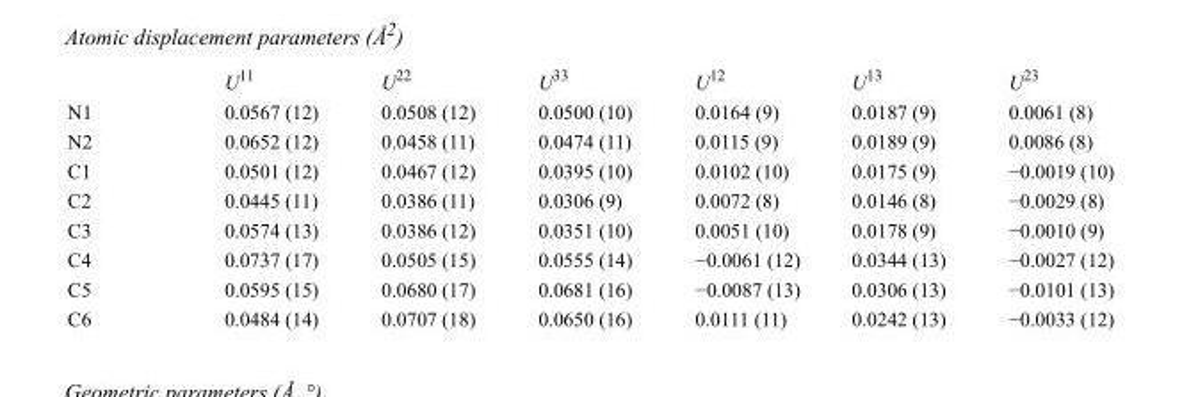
<table><thead><tr><td></td><td>U<sup>11</sup></td><td>U<sup>22</sup></td><td>U<sup>33</sup></td><td>U<sup>12</sup></td><td>U<sup>13</sup></td><td>U<sup>23</sup></td></tr></thead><tbody><tr><td>N1</td><td>0.0567 (12)</td><td>0.0508 (12)</td><td>0.0500 (10)</td><td>0.0164 (9)</td><td>0.0187 (9)</td><td>0.0061 (8)</td></tr><tr><td>N2</td><td>0.0652 (12)</td><td>0.0458 (11)</td><td>0.0474 (11)</td><td>0.0115 (9)</td><td>0.0189 (9)</td><td>0.0086 (8)</td></tr><tr><td>C1</td><td>0.0501 (12)</td><td>0.0467 (12)</td><td>0.0395 (10)</td><td>0.0102 (10)</td><td>0.0175 (9)</td><td>−0.0019 (10)</td></tr><tr><td>C2</td><td>0.0445 (11)</td><td>0.0386 (11)</td><td>0.0306 (9)</td><td>0.0072 (8)</td><td>0.0146 (8)</td><td>−0.0029 (8)</td></tr><tr><td>C3</td><td>0.0574 (13)</td><td>0.0386 (12)</td><td>0.0351 (10)</td><td>0.0051 (10)</td><td>0.0178 (9)</td><td>−0.0010 (9)</td></tr><tr><td>C4</td><td>0.0737 (17)</td><td>0.0505 (15)</td><td>0.0555 (14)</td><td>−0.0061 (12)</td><td>0.0344 (13)</td><td>−0.0027 (12)</td></tr><tr><td>C5</td><td>0.0595 (15)</td><td>0.0680 (17)</td><td>0.0681 (16)</td><td>−0.0087 (13)</td><td>0.0306 (13)</td><td>−0.0101 (13)</td></tr><tr><td>C6</td><td>0.0484 (14)</td><td>0.0707 (18)</td><td>0.0650 (16)</td><td>0.0111 (11)</td><td>0.0242 (13)</td><td>−0.0033 (12)</td></tr></tbody></table>